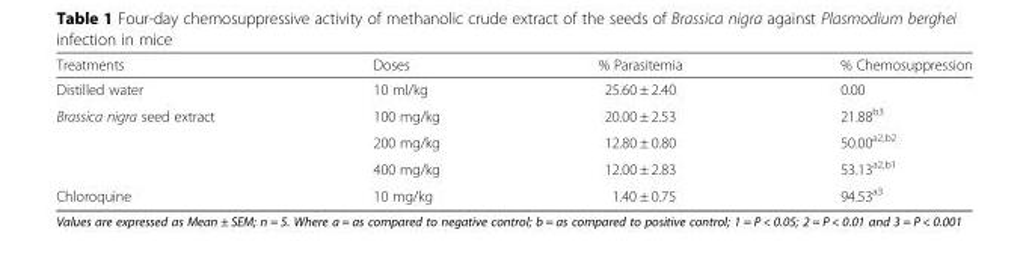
<table><thead><tr><td>Treatments</td><td>Doses</td><td>% Parasitemia</td><td>% Chemosuppression</td></tr></thead><tbody><tr><td>Distilled water</td><td>10 ml/kg</td><td>25.60 ± 2.40</td><td>0.00</td></tr><tr><td rowspan="3">Brassica nigra seed extract</td><td>100 mg/kg</td><td>20.00 ± 2.53</td><td>21.88<sup>b3</sup></td></tr><tr><td>200 mg/kg</td><td>12.80 ± 0.80</td><td>50.00<sup>a2,b2</sup></td></tr><tr><td>400 mg/kg</td><td>12.00 ± 2.83</td><td>53.13<sup>a2,b1</sup></td></tr><tr><td>Chloroquine</td><td>10 mg/kg</td><td>1.40 ± 0.75</td><td>94.53<sup>a3</sup></td></tr></tbody></table>